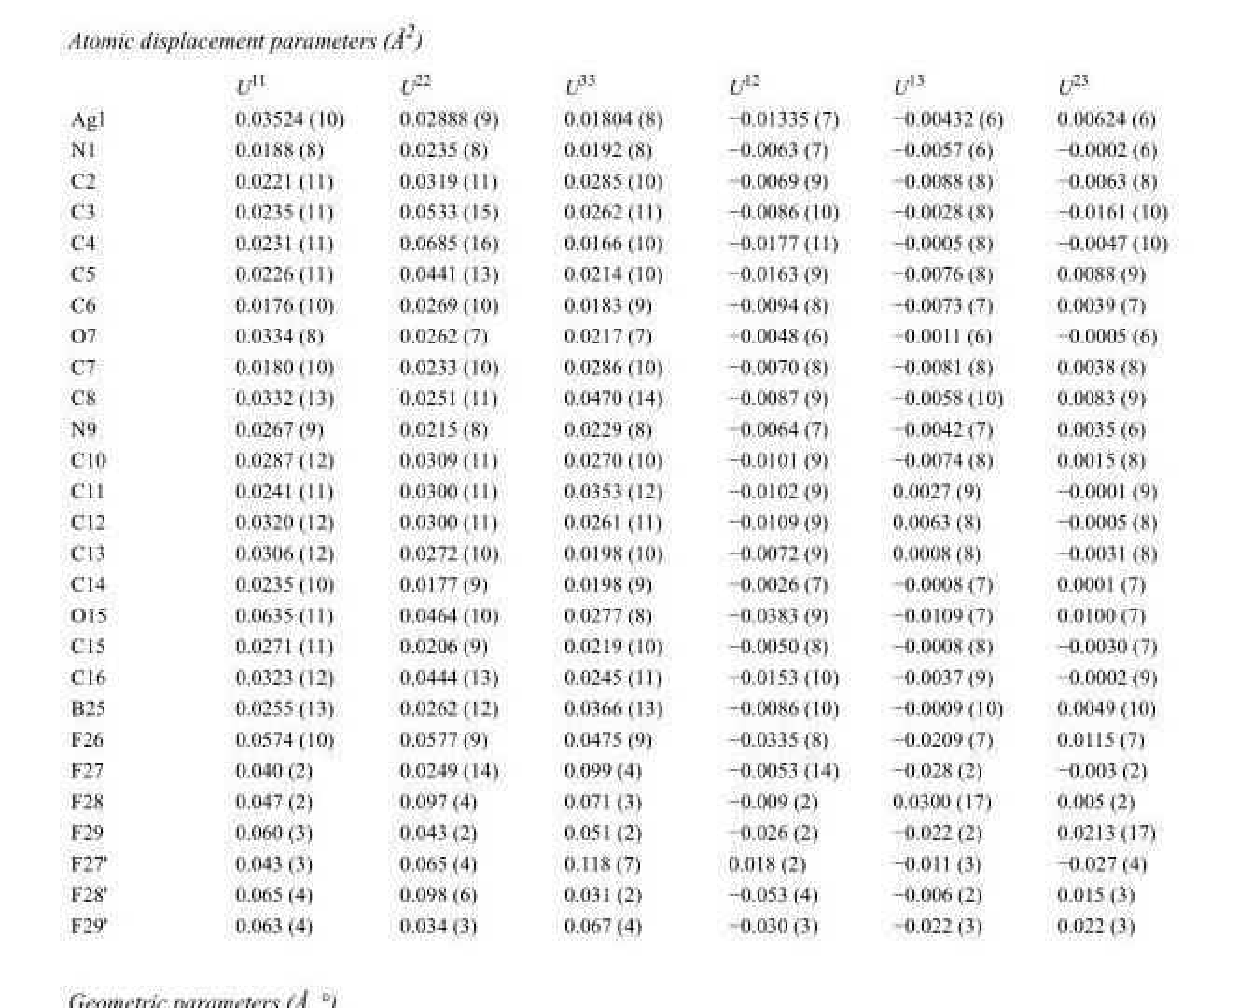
<table><thead><tr><td></td><td>U<sup>11</sup></td><td>U<sup>22</sup></td><td>U<sup>33</sup></td><td>U<sup>12</sup></td><td>U<sup>13</sup></td><td>U<sup>23</sup></td></tr></thead><tbody><tr><td>Ag1</td><td>0.03524 (10)</td><td>0.02888 (9)</td><td>0.01804 (8)</td><td>−0.01335 (7)</td><td>−0.00432 (6)</td><td>0.00624 (6)</td></tr><tr><td>N1</td><td>0.0188 (8)</td><td>0.0235 (8)</td><td>0.0192 (8)</td><td>−0.0063 (7)</td><td>−0.0057 (6)</td><td>−0.0002 (6)</td></tr><tr><td>C2</td><td>0.0221 (11)</td><td>0.0319 (11)</td><td>0.0285 (10)</td><td>−0.0069 (9)</td><td>−0.0088 (8)</td><td>−0.0063 (8)</td></tr><tr><td>C3</td><td>0.0235 (11)</td><td>0.0533 (15)</td><td>0.0262 (11)</td><td>−0.0086 (10)</td><td>−0.0028 (8)</td><td>−0.0161 (10)</td></tr><tr><td>C4</td><td>0.0231 (11)</td><td>0.0685 (16)</td><td>0.0166 (10)</td><td>−0.0177 (11)</td><td>−0.0005 (8)</td><td>−0.0047 (10)</td></tr><tr><td>C5</td><td>0.0226 (11)</td><td>0.0441 (13)</td><td>0.0214 (10)</td><td>−0.0163 (9)</td><td>−0.0076 (8)</td><td>0.0088 (9)</td></tr><tr><td>C6</td><td>0.0176 (10)</td><td>0.0269 (10)</td><td>0.0183 (9)</td><td>−0.0094 (8)</td><td>−0.0073 (7)</td><td>0.0039 (7)</td></tr><tr><td>O7</td><td>0.0334 (8)</td><td>0.0262 (7)</td><td>0.0217 (7)</td><td>−0.0048 (6)</td><td>−0.0011 (6)</td><td>−0.0005 (6)</td></tr><tr><td>C7</td><td>0.0180 (10)</td><td>0.0233 (10)</td><td>0.0286 (10)</td><td>−0.0070 (8)</td><td>−0.0081 (8)</td><td>0.0038 (8)</td></tr><tr><td>C8</td><td>0.0332 (13)</td><td>0.0251 (11)</td><td>0.0470 (14)</td><td>−0.0087 (9)</td><td>−0.0058 (10)</td><td>0.0083 (9)</td></tr><tr><td>N9</td><td>0.0267 (9)</td><td>0.0215 (8)</td><td>0.0229 (8)</td><td>−0.0064 (7)</td><td>−0.0042 (7)</td><td>0.0035 (6)</td></tr><tr><td>C10</td><td>0.0287 (12)</td><td>0.0309 (11)</td><td>0.0270 (10)</td><td>−0.0101 (9)</td><td>−0.0074 (8)</td><td>0.0015 (8)</td></tr><tr><td>C11</td><td>0.0241 (11)</td><td>0.0300 (11)</td><td>0.0353 (12)</td><td>−0.0102 (9)</td><td>0.0027 (9)</td><td>−0.0001 (9)</td></tr><tr><td>C12</td><td>0.0320 (12)</td><td>0.0300 (11)</td><td>0.0261 (11)</td><td>−0.0109 (9)</td><td>0.0063 (8)</td><td>−0.0005 (8)</td></tr><tr><td>C13</td><td>0.0306 (12)</td><td>0.0272 (10)</td><td>0.0198 (10)</td><td>−0.0072 (9)</td><td>0.0008 (8)</td><td>−0.0031 (8)</td></tr><tr><td>C14</td><td>0.0235 (10)</td><td>0.0177 (9)</td><td>0.0198 (9)</td><td>−0.0026 (7)</td><td>−0.0008 (7)</td><td>0.0001 (7)</td></tr><tr><td>O15</td><td>0.0635 (11)</td><td>0.0464 (10)</td><td>0.0277 (8)</td><td>−0.0383 (9)</td><td>−0.0109 (7)</td><td>0.0100 (7)</td></tr><tr><td>C15</td><td>0.0271 (11)</td><td>0.0206 (9)</td><td>0.0219 (10)</td><td>−0.0050 (8)</td><td>−0.0008 (8)</td><td>−0.0030 (7)</td></tr><tr><td>C16</td><td>0.0323 (12)</td><td>0.0444 (13)</td><td>0.0245 (11)</td><td>−0.0153 (10)</td><td>−0.0037 (9)</td><td>−0.0002 (9)</td></tr><tr><td>B25</td><td>0.0255 (13)</td><td>0.0262 (12)</td><td>0.0366 (13)</td><td>−0.0086 (10)</td><td>−0.0009 (10)</td><td>0.0049 (10)</td></tr><tr><td>F26</td><td>0.0574 (10)</td><td>0.0577 (9)</td><td>0.0475 (9)</td><td>−0.0335 (8)</td><td>−0.0209 (7)</td><td>0.0115 (7)</td></tr><tr><td>F27</td><td>0.040 (2)</td><td>0.0249 (14)</td><td>0.099 (4)</td><td>−0.0053 (14)</td><td>−0.028 (2)</td><td>−0.003 (2)</td></tr><tr><td>F28</td><td>0.047 (2)</td><td>0.097 (4)</td><td>0.071 (3)</td><td>−0.009 (2)</td><td>0.0300 (17)</td><td>0.005 (2)</td></tr><tr><td>F29</td><td>0.060 (3)</td><td>0.043 (2)</td><td>0.051 (2)</td><td>−0.026 (2)</td><td>−0.022 (2)</td><td>0.0213 (17)</td></tr><tr><td>F27&#x27;</td><td>0.043 (3)</td><td>0.065 (4)</td><td>0.118 (7)</td><td>0.018 (2)</td><td>−0.011 (3)</td><td>−0.027 (4)</td></tr><tr><td>F28&#x27;</td><td>0.065 (4)</td><td>0.098 (6)</td><td>0.031 (2)</td><td>−0.053 (4)</td><td>−0.006 (2)</td><td>0.015 (3)</td></tr><tr><td>F29&#x27;</td><td>0.063 (4)</td><td>0.034 (3)</td><td>0.067 (4)</td><td>−0.030 (3)</td><td>−0.022 (3)</td><td>0.022 (3)</td></tr></tbody></table>